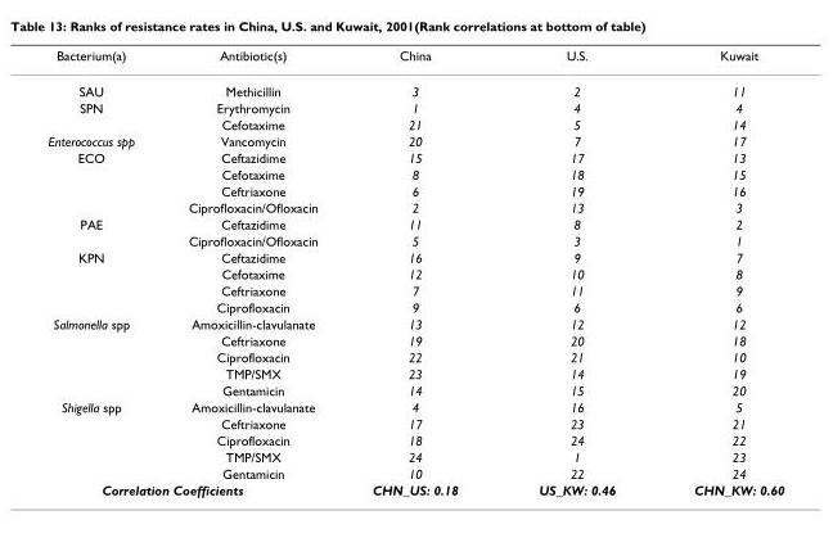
<table><thead><tr><td>Bacterium(a)</td><td>Antibiotic(s)</td><td>China</td><td>U.S.</td><td>Kuwait</td></tr></thead><tbody><tr><td>SAU</td><td>Methicillin</td><td>3</td><td>2</td><td>11</td></tr><tr><td rowspan="2">SPN</td><td>Erythromycin</td><td>1</td><td>4</td><td>4</td></tr><tr><td>Cefotaxime</td><td>21</td><td>5</td><td>14</td></tr><tr><td>Enterococcus spp</td><td>Vancomycin</td><td>20</td><td>7</td><td>17</td></tr><tr><td rowspan="4">ECO</td><td>Ceftazidime</td><td>15</td><td>17</td><td>13</td></tr><tr><td>Cefotaxime</td><td>8</td><td>18</td><td>15</td></tr><tr><td>Ceftriaxone</td><td>6</td><td>19</td><td>16</td></tr><tr><td>Ciprofloxacin/Ofloxacin</td><td>2</td><td>13</td><td>3</td></tr><tr><td rowspan="2">PAE</td><td>Ceftazidime</td><td>11</td><td>8</td><td>2</td></tr><tr><td>Ciprofloxacin/Ofloxacin</td><td>5</td><td>3</td><td>1</td></tr><tr><td rowspan="4">KPN</td><td>Ceftazidime</td><td>16</td><td>9</td><td>7</td></tr><tr><td>Cefotaxime</td><td>12</td><td>10</td><td>8</td></tr><tr><td>Ceftriaxone</td><td>7</td><td>11</td><td>9</td></tr><tr><td>Ciprofloxacin</td><td>9</td><td>6</td><td>6</td></tr><tr><td rowspan="5">Salmonella spp</td><td>Amoxicillin-clavulanate</td><td>13</td><td>12</td><td>12</td></tr><tr><td>Ceftriaxone</td><td>19</td><td>20</td><td>18</td></tr><tr><td>Ciprofloxacin</td><td>22</td><td>21</td><td>10</td></tr><tr><td>TMP/SMX</td><td>23</td><td>14</td><td>19</td></tr><tr><td>Gentamicin</td><td>14</td><td>15</td><td>20</td></tr><tr><td rowspan="5">Shigella spp</td><td>Amoxicillin-clavulanate</td><td>4</td><td>16</td><td>5</td></tr><tr><td>Ceftriaxone</td><td>17</td><td>23</td><td>21</td></tr><tr><td>Ciprofloxacin</td><td>18</td><td>24</td><td>22</td></tr><tr><td>TMP/SMX</td><td>24</td><td>1</td><td>23</td></tr><tr><td>Gentamicin</td><td>10</td><td>22</td><td>24</td></tr><tr><td colspan="2">Correlation Coefficients</td><td>CHN_US: 0.18</td><td>US_KW: 0.46</td><td>CHN_KW: 0.60</td></tr></tbody></table>